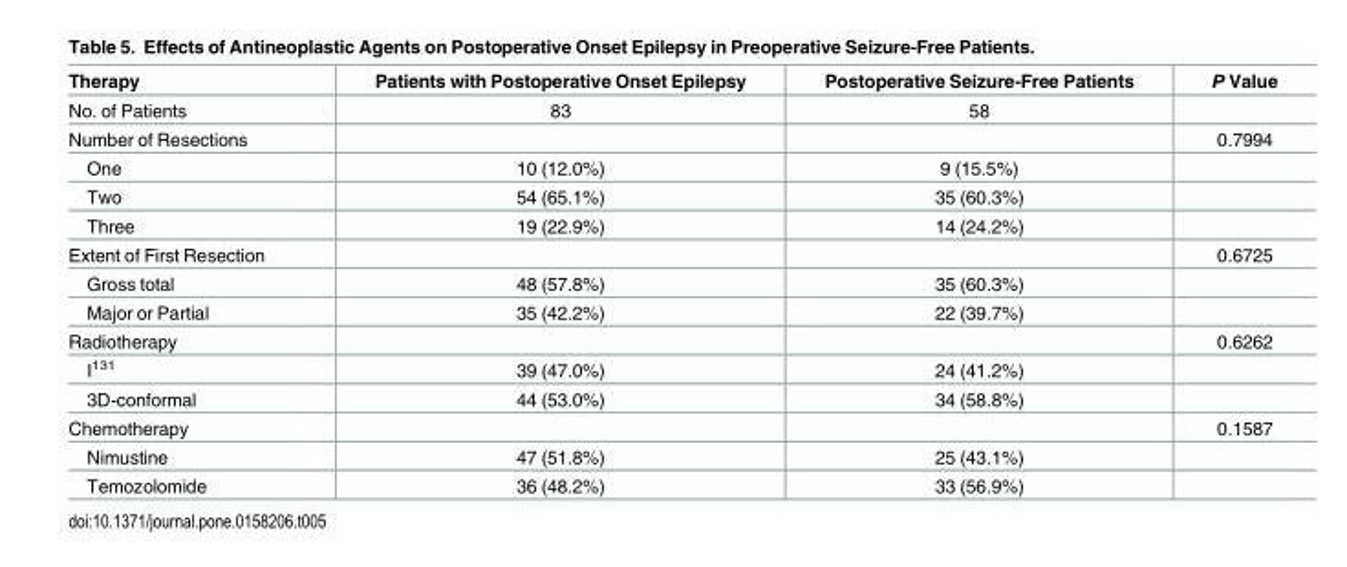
<table><thead><tr><td>Therapy</td><td>Patients with Postoperative Onset Epilepsy</td><td>Postoperative Seizure-Free Patients</td><td>P Value</td></tr></thead><tbody><tr><td>No. of Patients</td><td>83</td><td>58</td><td></td></tr><tr><td>Number of Resections</td><td></td><td></td><td>0.7994</td></tr><tr><td>One</td><td>10 (12.0%)</td><td>9 (15.5%)</td><td></td></tr><tr><td>Two</td><td>54 (65.1%)</td><td>35 (60.3%)</td><td></td></tr><tr><td>Three</td><td>19 (22.9%)</td><td>14 (24.2%)</td><td></td></tr><tr><td>Extent of First Resection</td><td></td><td></td><td>0.6725</td></tr><tr><td>Gross total</td><td>48 (57.8%)</td><td>35 (60.3%)</td><td></td></tr><tr><td>Major or Partial</td><td>35 (42.2%)</td><td>22 (39.7%)</td><td></td></tr><tr><td>Radiotherapy</td><td></td><td></td><td>0.6262</td></tr><tr><td>I<sup>131</sup></td><td>39 (47.0%)</td><td>24 (41.2%)</td><td></td></tr><tr><td>3D-conformal</td><td>44 (53.0%)</td><td>34 (58.8%)</td><td></td></tr><tr><td>Chemotherapy</td><td></td><td></td><td>0.1587</td></tr><tr><td>Nimustine</td><td>47 (51.8%)</td><td>25 (43.1%)</td><td></td></tr><tr><td>Temozolomide</td><td>36 (48.2%)</td><td>33 (56.9%)</td><td></td></tr></tbody></table>